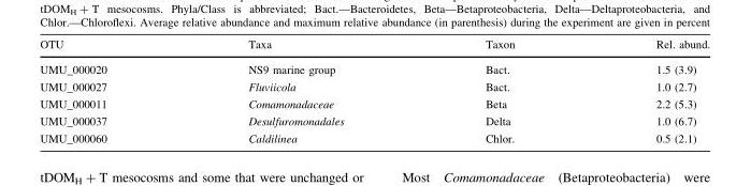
<table><thead><tr><td>OTU</td><td>Taxa</td><td>Taxon</td><td>Rel. abund.</td></tr></thead><tbody><tr><td>UMU_000020</td><td>NS9 marine group</td><td>Bact.</td><td>1.5 (3.9)</td></tr><tr><td>UMU_000027</td><td>Fluviicola</td><td>Bact.</td><td>1.0 (2.7)</td></tr><tr><td>UMU_000011</td><td>Comamonadaceae</td><td>Beta</td><td>2.2 (5.3)</td></tr><tr><td>UMU_000037</td><td>Desulfuromonadales</td><td>Delta</td><td>1.0 (6.7)</td></tr><tr><td>UMU_000060</td><td>Caldilinea</td><td>Chlor.</td><td>0.5 (2.1)</td></tr></tbody></table>